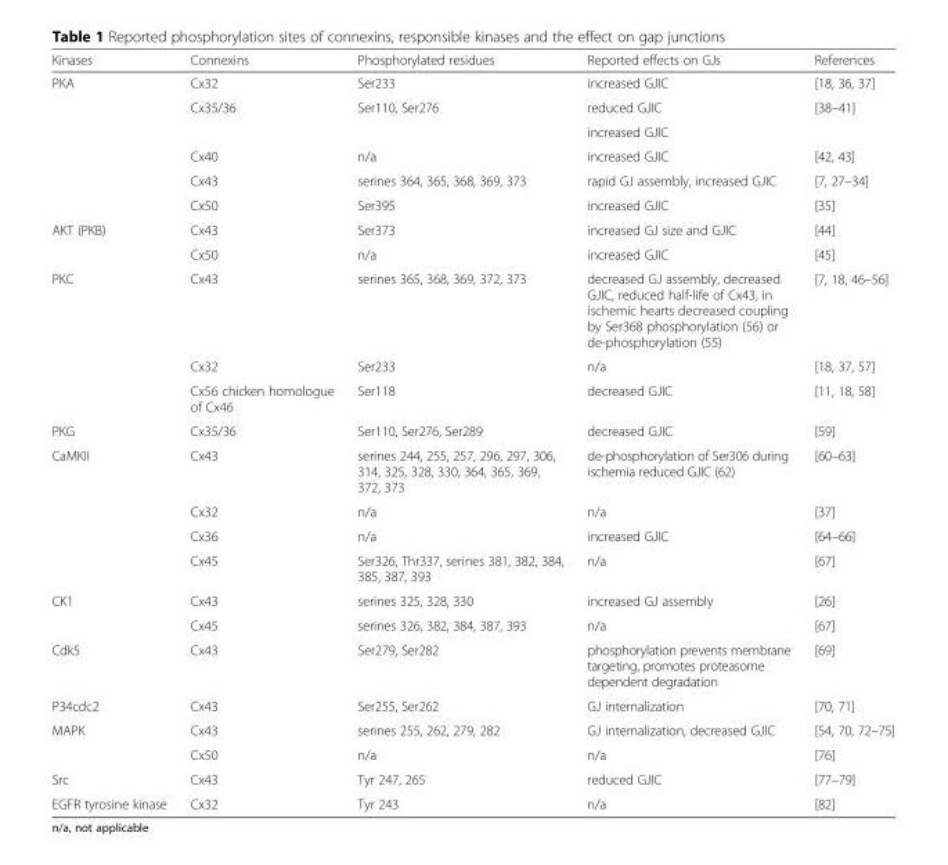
<table><thead><tr><td>Kinases</td><td>Connexins</td><td>Phosphorylated residues</td><td>Reported effects on GJs</td><td>References</td></tr></thead><tbody><tr><td rowspan="6">PKA</td><td>Cx32</td><td>Ser233</td><td>increased GJIC</td><td>[18, 36, 37]</td></tr><tr><td rowspan="2">Cx35/36</td><td rowspan="2">Ser110, Ser276</td><td>reduced GJIC</td><td rowspan="2">[38–41]</td></tr><tr><td>increased GJIC</td></tr><tr><td>Cx40</td><td>n/a</td><td>increased GJIC</td><td>[42, 43]</td></tr><tr><td>Cx43</td><td>serines 364, 365, 368, 369, 373</td><td>rapid GJ assembly, increased GJIC</td><td>[7, 27–34]</td></tr><tr><td>Cx50</td><td>Ser395</td><td>increased GJIC</td><td>[35]</td></tr><tr><td rowspan="2">AKT (PKB)</td><td>Cx43</td><td>Ser373</td><td>increased GJ size and GJIC</td><td>[44]</td></tr><tr><td>Cx50</td><td>n/a</td><td>increased GJIC</td><td>[45]</td></tr><tr><td rowspan="3">PKC</td><td>Cx43</td><td>serines 365, 368, 369, 372, 373</td><td>decreased GJ assembly, decreased GJIC, reduced half-life of Cx43, in ischemic hearts decreased coupling by Ser368 phosphorylation (56) or de-phosphorylation (55)</td><td>[7, 18, 46–56]</td></tr><tr><td>Cx32</td><td>Ser233</td><td>n/a</td><td>[18, 37, 57]</td></tr><tr><td>Cx56 chicken homologue of Cx46</td><td>Ser118</td><td>decreased GJIC</td><td>[11, 18, 58]</td></tr><tr><td>PKG</td><td>Cx35/36</td><td>Ser110, Ser276, Ser289</td><td>decreased GJIC</td><td>[59]</td></tr><tr><td rowspan="4">CaMKII</td><td>Cx43</td><td>serines 244, 255, 257, 296, 297, 306, 314, 325, 328, 330, 364, 365, 369, 372, 373</td><td>de-phosphorylation of Ser306 during ischemia reduced GJIC (62)</td><td>[60–63]</td></tr><tr><td>Cx32</td><td>n/a</td><td>n/a</td><td>[37]</td></tr><tr><td>Cx36</td><td>n/a</td><td>increased GJIC</td><td>[64–66]</td></tr><tr><td>Cx45</td><td>Ser326, Thr337, serines 381, 382, 384, 385, 387, 393</td><td>n/a</td><td>[67]</td></tr><tr><td rowspan="2">CK1</td><td>Cx43</td><td>serines 325, 328, 330</td><td>increased GJ assembly</td><td>[26]</td></tr><tr><td>Cx45</td><td>serines 326, 382, 384, 387, 393</td><td>n/a</td><td>[67]</td></tr><tr><td>Cdk5</td><td>Cx43</td><td>Ser279, Ser282</td><td>phosphorylation prevents membrane targeting, promotes proteasome dependent degradation</td><td>[69]</td></tr><tr><td>P34cdc2</td><td>Cx43</td><td>Ser255, Ser262</td><td>GJ internalization</td><td>[70, 71]</td></tr><tr><td rowspan="2">MAPK</td><td>Cx43</td><td>serines 255, 262, 279, 282</td><td>GJ internalization, decreased GJIC</td><td>[54, 70, 72–75]</td></tr><tr><td>Cx50</td><td>n/a</td><td>n/a</td><td>[76]</td></tr><tr><td>Src</td><td>Cx43</td><td>Tyr 247, 265</td><td>reduced GJIC</td><td>[77–79]</td></tr><tr><td>EGFR tyrosine kinase</td><td>Cx32</td><td>Tyr 243</td><td>n/a</td><td>[82]</td></tr></tbody></table>